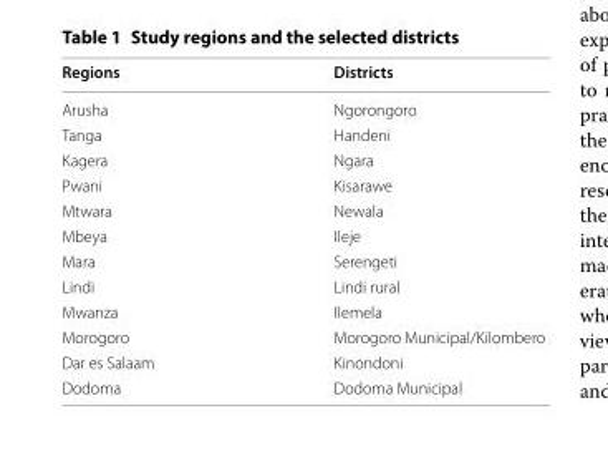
<table><thead><tr><td>Regions</td><td>Districts</td></tr></thead><tbody><tr><td>Arusha</td><td>Ngorongoro</td></tr><tr><td>Tanga</td><td>Handeni</td></tr><tr><td>Kagera</td><td>Ngara</td></tr><tr><td>Pwani</td><td>Kisarawe</td></tr><tr><td>Mtwara</td><td>Newala</td></tr><tr><td>Mbeya</td><td>Ileje</td></tr><tr><td>Mara</td><td>Serengeti</td></tr><tr><td>Lindi</td><td>Lindi rural</td></tr><tr><td>Mwanza</td><td>Ilemela</td></tr><tr><td>Morogoro</td><td>Morogoro Municipal/Kilombero</td></tr><tr><td>Dar es Salaam</td><td>Kinondoni</td></tr><tr><td>Dodoma</td><td>Dodoma Municipal</td></tr></tbody></table>